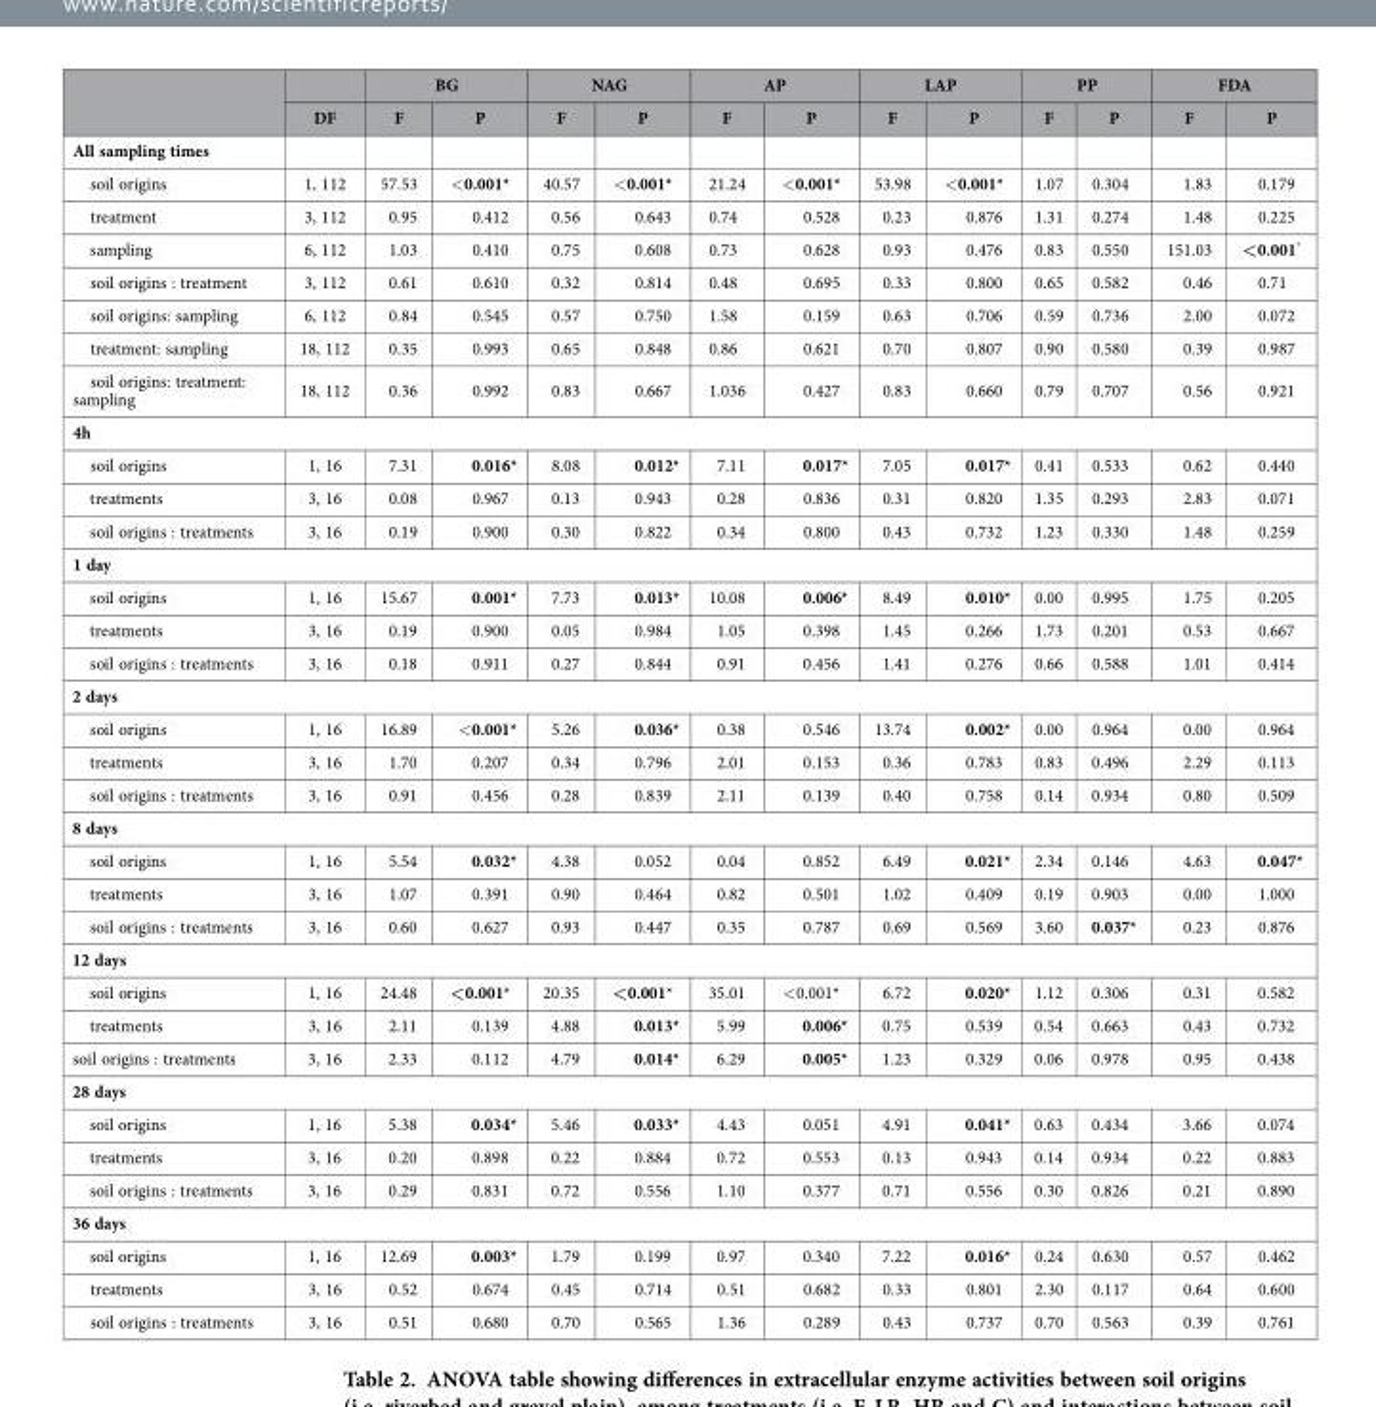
<table><thead><tr><td rowspan="2"></td><td rowspan="2">DF</td><td colspan="2">BG</td><td colspan="2">NAG</td><td colspan="2">AP</td><td colspan="2">LAP</td><td colspan="2">PP</td><td colspan="2">FDA</td></tr><tr><td>F</td><td>P</td><td>F</td><td>P</td><td>F</td><td>P</td><td>F</td><td>P</td><td>F</td><td>P</td><td>F</td><td>P</td></tr></thead><tbody><tr><td colspan="14">All sampling times</td></tr><tr><td>soil origins</td><td>1, 112</td><td>57.53</td><td>&lt;0.001*</td><td>40.57</td><td>&lt;0.001*</td><td>21.24</td><td>&lt;0.001*</td><td>53.98</td><td>&lt;0.001*</td><td>1.07</td><td>0.304</td><td>1.83</td><td>0.179</td></tr><tr><td>treatment</td><td>3, 112</td><td>0.95</td><td>0.412</td><td>0.56</td><td>0.643</td><td>0.74</td><td>0.528</td><td>0.23</td><td>0.876</td><td>1.31</td><td>0.274</td><td>1.48</td><td>0.225</td></tr><tr><td>sampling</td><td>6, 112</td><td>1.03</td><td>0.410</td><td>0.75</td><td>0.608</td><td>0.73</td><td>0.628</td><td>0.93</td><td>0.476</td><td>0.83</td><td>0.550</td><td>151.03</td><td>&lt;0.001*</td></tr><tr><td>soil origins : treatment</td><td>3, 112</td><td>0.61</td><td>0.610</td><td>0.32</td><td>0.814</td><td>0.48</td><td>0.695</td><td>0.33</td><td>0.800</td><td>0.65</td><td>0.582</td><td>0.46</td><td>0.71</td></tr><tr><td>soil origins: sampling</td><td>6, 112</td><td>0.84</td><td>0.545</td><td>0.57</td><td>0.750</td><td>1.58</td><td>0.159</td><td>0.63</td><td>0.706</td><td>0.59</td><td>0.736</td><td>2.00</td><td>0.072</td></tr><tr><td>treatment: sampling</td><td>18, 112</td><td>0.35</td><td>0.993</td><td>0.65</td><td>0.848</td><td>0.86</td><td>0.621</td><td>0.70</td><td>0.807</td><td>0.90</td><td>0.580</td><td>0.39</td><td>0.987</td></tr><tr><td>soil origins: treatment: sampling</td><td>18, 112</td><td>0.36</td><td>0.992</td><td>0.83</td><td>0.667</td><td>1.036</td><td>0.427</td><td>0.83</td><td>0.660</td><td>0.79</td><td>0.707</td><td>0.56</td><td>0.921</td></tr><tr><td colspan="14">4h</td></tr><tr><td>soil origins</td><td>1, 16</td><td>7.31</td><td>0.016*</td><td>8.08</td><td>0.012*</td><td>7.11</td><td>0.017*</td><td>7.05</td><td>0.017*</td><td>0.41</td><td>0.533</td><td>0.62</td><td>0.440</td></tr><tr><td>treatments</td><td>3, 16</td><td>0.08</td><td>0.967</td><td>0.13</td><td>0.943</td><td>0.28</td><td>0.836</td><td>0.31</td><td>0.820</td><td>1.35</td><td>0.293</td><td>2.83</td><td>0.071</td></tr><tr><td>soil origins : treatments</td><td>3, 16</td><td>0.19</td><td>0.900</td><td>0.30</td><td>0.822</td><td>0.34</td><td>0.800</td><td>0.43</td><td>0.732</td><td>1.23</td><td>0.330</td><td>1.48</td><td>0.259</td></tr><tr><td colspan="14">1 day</td></tr><tr><td>soil origins</td><td>1, 16</td><td>15.67</td><td>0.001*</td><td>7.73</td><td>0.013*</td><td>10.08</td><td>0.006*</td><td>8.49</td><td>0.010*</td><td>0.00</td><td>0.995</td><td>1.75</td><td>0.205</td></tr><tr><td>treatments</td><td>3, 16</td><td>0.19</td><td>0.900</td><td>0.05</td><td>0.984</td><td>1.05</td><td>0.398</td><td>1.45</td><td>0.266</td><td>1.73</td><td>0.201</td><td>0.53</td><td>0.667</td></tr><tr><td>soil origins : treatments</td><td>3, 16</td><td>0.18</td><td>0.911</td><td>0.27</td><td>0.844</td><td>0.91</td><td>0.456</td><td>1.41</td><td>0.276</td><td>0.66</td><td>0.588</td><td>1.01</td><td>0.414</td></tr><tr><td colspan="14">2 days</td></tr><tr><td>soil origins</td><td>1, 16</td><td>16.89</td><td>&lt;0.001*</td><td>5.26</td><td>0.036*</td><td>0.38</td><td>0.546</td><td>13.74</td><td>0.002*</td><td>0.00</td><td>0.964</td><td>0.00</td><td>0.964</td></tr><tr><td>treatments</td><td>3, 16</td><td>1.70</td><td>0.207</td><td>0.34</td><td>0.796</td><td>2.01</td><td>0.153</td><td>0.36</td><td>0.783</td><td>0.83</td><td>0.496</td><td>2.29</td><td>0.113</td></tr><tr><td>soil origins : treatments</td><td>3, 16</td><td>0.91</td><td>0.456</td><td>0.28</td><td>0.839</td><td>2.11</td><td>0.139</td><td>0.40</td><td>0.758</td><td>0.14</td><td>0.934</td><td>0.80</td><td>0.509</td></tr><tr><td colspan="14">8 days</td></tr><tr><td>soil origins</td><td>1, 16</td><td>5.54</td><td>0.032*</td><td>4.38</td><td>0.052</td><td>0.04</td><td>0.852</td><td>6.49</td><td>0.021*</td><td>2.34</td><td>0.146</td><td>4.63</td><td>0.047*</td></tr><tr><td>treatments</td><td>3, 16</td><td>1.07</td><td>0.391</td><td>0.90</td><td>0.464</td><td>0.82</td><td>0.501</td><td>1.02</td><td>0.409</td><td>0.19</td><td>0.903</td><td>0.00</td><td>1.000</td></tr><tr><td>soil origins : treatments</td><td>3, 16</td><td>0.60</td><td>0.627</td><td>0.93</td><td>0.447</td><td>0.35</td><td>0.787</td><td>0.69</td><td>0.569</td><td>3.60</td><td>0.037*</td><td>0.23</td><td>0.876</td></tr><tr><td colspan="14">12 days</td></tr><tr><td>soil origins</td><td>1, 16</td><td>24.48</td><td>&lt;0.001*</td><td>20.35</td><td>&lt;0.001*</td><td>35.01</td><td>&lt;0.001*</td><td>6.72</td><td>0.020*</td><td>1.12</td><td>0.306</td><td>0.31</td><td>0.582</td></tr><tr><td>treatments</td><td>3, 16</td><td>2.11</td><td>0.139</td><td>4.88</td><td>0.013*</td><td>5.99</td><td>0.006*</td><td>0.75</td><td>0.539</td><td>0.54</td><td>0.663</td><td>0.43</td><td>0.732</td></tr><tr><td>soil origins : treatments</td><td>3, 16</td><td>2.33</td><td>0.112</td><td>4.79</td><td>0.014*</td><td>6.29</td><td>0.005*</td><td>1.23</td><td>0.329</td><td>0.06</td><td>0.978</td><td>0.95</td><td>0.438</td></tr><tr><td colspan="14">28 days</td></tr><tr><td>soil origins</td><td>1, 16</td><td>5.38</td><td>0.034*</td><td>5.46</td><td>0.033*</td><td>4.43</td><td>0.051</td><td>4.91</td><td>0.041*</td><td>0.63</td><td>0.434</td><td>3.66</td><td>0.074</td></tr><tr><td>treatments</td><td>3, 16</td><td>0.20</td><td>0.898</td><td>0.22</td><td>0.884</td><td>0.72</td><td>0.553</td><td>0.13</td><td>0.943</td><td>0.14</td><td>0.934</td><td>0.22</td><td>0.883</td></tr><tr><td>soil origins : treatments</td><td>3, 16</td><td>0.29</td><td>0.831</td><td>0.72</td><td>0.556</td><td>1.10</td><td>0.377</td><td>0.71</td><td>0.556</td><td>0.30</td><td>0.826</td><td>0.21</td><td>0.890</td></tr><tr><td colspan="14">36 days</td></tr><tr><td>soil origins</td><td>1, 16</td><td>12.69</td><td>0.003*</td><td>1.79</td><td>0.199</td><td>0.97</td><td>0.340</td><td>7.22</td><td>0.016*</td><td>0.24</td><td>0.630</td><td>0.57</td><td>0.462</td></tr><tr><td>treatments</td><td>3, 16</td><td>0.52</td><td>0.674</td><td>0.45</td><td>0.714</td><td>0.51</td><td>0.682</td><td>0.33</td><td>0.801</td><td>2.30</td><td>0.117</td><td>0.64</td><td>0.600</td></tr><tr><td>soil origins : treatments</td><td>3, 16</td><td>0.51</td><td>0.680</td><td>0.70</td><td>0.565</td><td>1.36</td><td>0.289</td><td>0.43</td><td>0.737</td><td>0.70</td><td>0.563</td><td>0.39</td><td>0.761</td></tr></tbody></table>